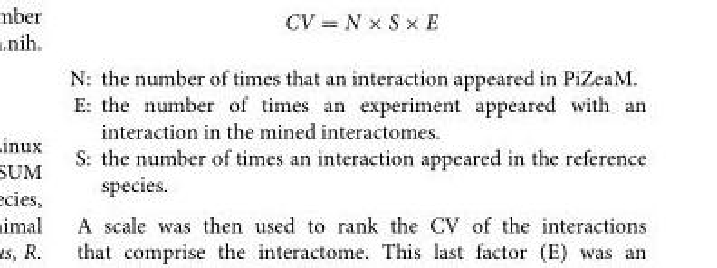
<table><tbody><tr><td>N:</td><td>the number of times that an interaction appeared in PiZeaM.</td></tr><tr><td>E:</td><td>the number of times an experiment appeared with an interaction in the mined interactomes.</td></tr><tr><td>S:</td><td>the number of times an interaction appeared in the reference species.</td></tr></tbody></table>